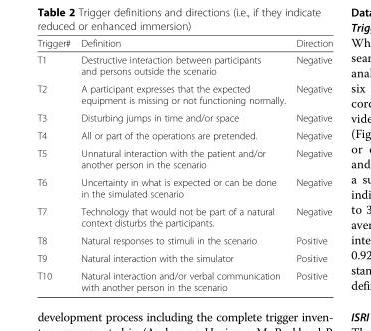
<table><thead><tr><td>Trigger#</td><td>Definition</td><td>Direction</td></tr></thead><tbody><tr><td>T1</td><td>Destructive interaction between participants and persons outside the scenario</td><td>Negative</td></tr><tr><td>T2</td><td>A participant expresses that the expected equipment is missing or not functioning normally.</td><td>Negative</td></tr><tr><td>T3</td><td>Disturbing jumps in time and/or space</td><td>Negative</td></tr><tr><td>T4</td><td>All or part of the operations are pretended.</td><td>Negative</td></tr><tr><td>T5</td><td>Unnatural interaction with the patient and/or another person in the scenario</td><td>Negative</td></tr><tr><td>T6</td><td>Uncertainty in what is expected or can be done in the simulated scenario</td><td>Negative</td></tr><tr><td>T7</td><td>Technology that would not be part of a natural context disturbs the participants.</td><td>Negative</td></tr><tr><td>T8</td><td>Natural responses to stimuli in the scenario</td><td>Positive</td></tr><tr><td>T9</td><td>Natural interaction with the simulator</td><td>Positive</td></tr><tr><td>T10</td><td>Natural interaction and/or verbal communication with another person in the scenario</td><td>Positive</td></tr></tbody></table>